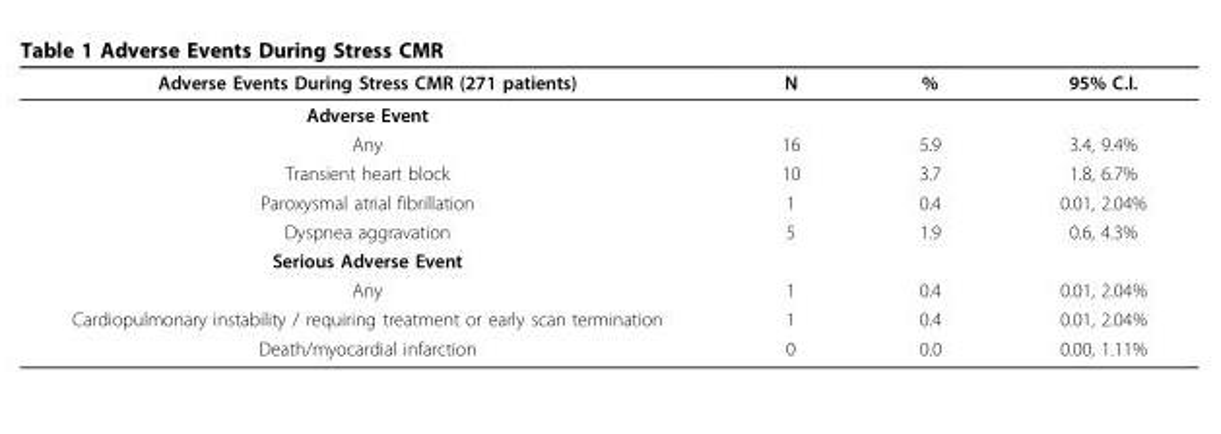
<table><thead><tr><td>Adverse Events During Stress CMR (271 patients)</td><td>N</td><td>%</td><td>95% C.I.</td></tr></thead><tbody><tr><td colspan="4">Adverse Event</td></tr><tr><td>Any</td><td>16</td><td>5.9</td><td>3.4, 9.4%</td></tr><tr><td>Transient heart block</td><td>10</td><td>3.7</td><td>1.8, 6.7%</td></tr><tr><td>Paroxysmal atrial fibrillation</td><td>1</td><td>0.4</td><td>0.01, 2.04%</td></tr><tr><td>Dyspnea aggravation</td><td>5</td><td>1.9</td><td>0.6, 4.3%</td></tr><tr><td colspan="4">Serious Adverse Event</td></tr><tr><td>Any</td><td>1</td><td>0.4</td><td>0.01, 2.04%</td></tr><tr><td>Cardiopulmonary instability / requiring treatment or early scan termination</td><td>1</td><td>0.4</td><td>0.01, 2.04%</td></tr><tr><td>Death/myocardial infarction</td><td>0</td><td>0.0</td><td>0.00, 1.11%</td></tr></tbody></table>